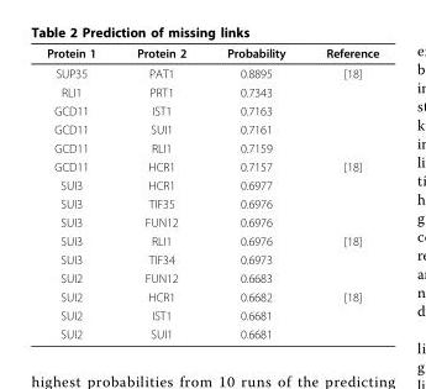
<table><thead><tr><td>Protein 1</td><td>Protein 2</td><td>Probability</td><td>Reference</td></tr></thead><tbody><tr><td>SUP35</td><td>PAT1</td><td>0.8895</td><td>[18]</td></tr><tr><td>RLI1</td><td>PRT1</td><td>0.7343</td><td></td></tr><tr><td>GCD11</td><td>IST1</td><td>0.7163</td><td></td></tr><tr><td>GCD11</td><td>SUI1</td><td>0.7161</td><td></td></tr><tr><td>GCD11</td><td>RLI1</td><td>0.7159</td><td></td></tr><tr><td>GCD11</td><td>HCR1</td><td>0.7157</td><td>[18]</td></tr><tr><td>SUI3</td><td>HCR1</td><td>0.6977</td><td></td></tr><tr><td>SUI3</td><td>TIF35</td><td>0.6976</td><td></td></tr><tr><td>SUI3</td><td>FUN12</td><td>0.6976</td><td></td></tr><tr><td>SUI3</td><td>RLI1</td><td>0.6976</td><td>[18]</td></tr><tr><td>SUI3</td><td>TIF34</td><td>0.6973</td><td></td></tr><tr><td>SUI2</td><td>FUN12</td><td>0.6683</td><td></td></tr><tr><td>SUI2</td><td>HCR1</td><td>0.6682</td><td>[18]</td></tr><tr><td>SUI2</td><td>IST1</td><td>0.6681</td><td></td></tr><tr><td>SUI2</td><td>SUI1</td><td>0.6681</td><td></td></tr></tbody></table>